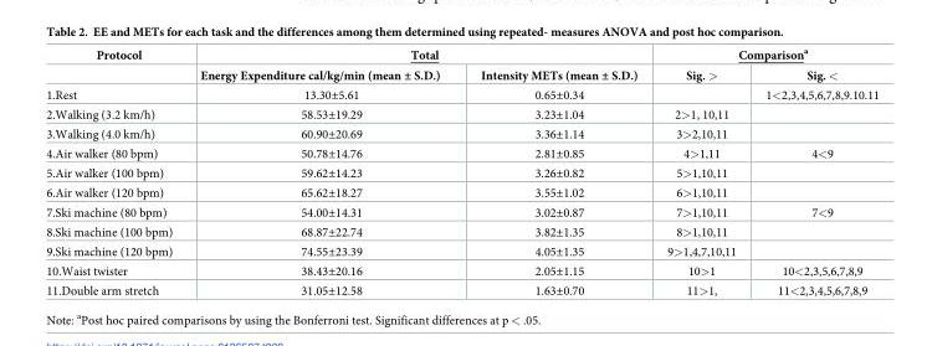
<table><thead><tr><td rowspan="2">Protocol</td><td colspan="2">Total</td><td colspan="2">Comparison<sup>a</sup></td></tr><tr><td>Energy Expenditure cal/kg/min (mean ± S.D.)</td><td>Intensity METs (mean ± S.D.)</td><td>Sig. &gt;</td><td>Sig. &lt;</td></tr></thead><tbody><tr><td>1.Rest</td><td>13.30±5.61</td><td>0.65±0.34</td><td></td><td>1&lt;2,3,4,5,6,7,8,9.10.11</td></tr><tr><td>2.Walking (3.2 km/h)</td><td>58.53±19.29</td><td>3.23±1.04</td><td>2&gt;1, 10,11</td><td></td></tr><tr><td>3.Walking (4.0 km/h)</td><td>60.90±20.69</td><td>3.36±1.14</td><td>3&gt;2,10,11</td><td></td></tr><tr><td>4.Air walker (80 bpm)</td><td>50.78±14.76</td><td>2.81±0.85</td><td>4&gt;1,11</td><td>4&lt;9</td></tr><tr><td>5.Air walker (100 bpm)</td><td>59.62±14.23</td><td>3.26±0.82</td><td>5&gt;1,10,11</td><td></td></tr><tr><td>6.Air walker (120 bpm)</td><td>65.62±18.27</td><td>3.55±1.02</td><td>6&gt;1,10,11</td><td></td></tr><tr><td>7.Ski machine (80 bpm)</td><td>54.00±14.31</td><td>3.02±0.87</td><td>7&gt;1,10,11</td><td>7&lt;9</td></tr><tr><td>8.Ski machine (100 bpm)</td><td>68.87±22.74</td><td>3.82±1.35</td><td>8&gt;1,10,11</td><td></td></tr><tr><td>9.Ski machine (120 bpm)</td><td>74.55±23.39</td><td>4.05±1.35</td><td>9&gt;1,4,7,10,11</td><td></td></tr><tr><td>10.Waist twister</td><td>38.43±20.16</td><td>2.05±1.15</td><td>10&gt;1</td><td>10&lt;2,3,5,6,7,8,9</td></tr><tr><td>11.Double arm stretch</td><td>31.05±12.58</td><td>1.63±0.70</td><td>11&gt;1,</td><td>11&lt;2,3,4,5,6,7,8,9</td></tr></tbody></table>